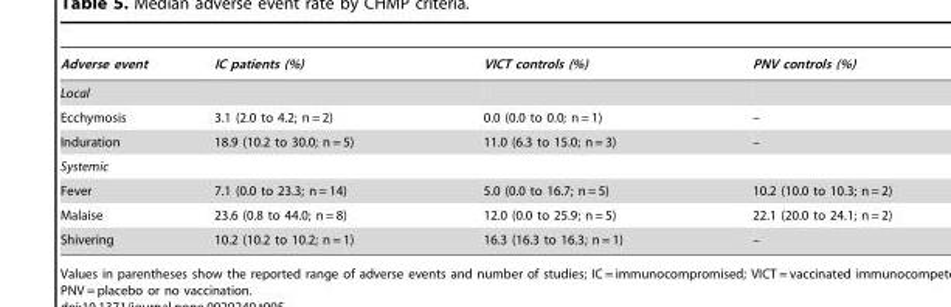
<table><thead><tr><td>Adverse event</td><td>IC patients (%)</td><td>VICT controls (%)</td><td>PNV controls (%)</td></tr></thead><tbody><tr><td colspan="4">Local</td></tr><tr><td>Ecchymosis</td><td>3.1 (2.0 to 4.2; n = 2)</td><td>0.0 (0.0 to 0.0; n = 1)</td><td>–</td></tr><tr><td>Induration</td><td>18.9 (10.2 to 30.0; n = 5)</td><td>11.0 (6.3 to 15.0; n = 3)</td><td>–</td></tr><tr><td colspan="4">Systemic</td></tr><tr><td>Fever</td><td>7.1 (0.0 to 23.3; n = 14)</td><td>5.0 (0.0 to 16.7; n = 5)</td><td>10.2 (10.0 to 10.3; n = 2)</td></tr><tr><td>Malaise</td><td>23.6 (0.8 to 44.0; n = 8)</td><td>12.0 (0.0 to 25.9; n = 5)</td><td>22.1 (20.0 to 24.1; n = 2)</td></tr><tr><td>Shivering</td><td>10.2 (10.2 to 10.2; n = 1)</td><td>16.3 (16.3 to 16.3; n = 1)</td><td>–</td></tr></tbody></table>